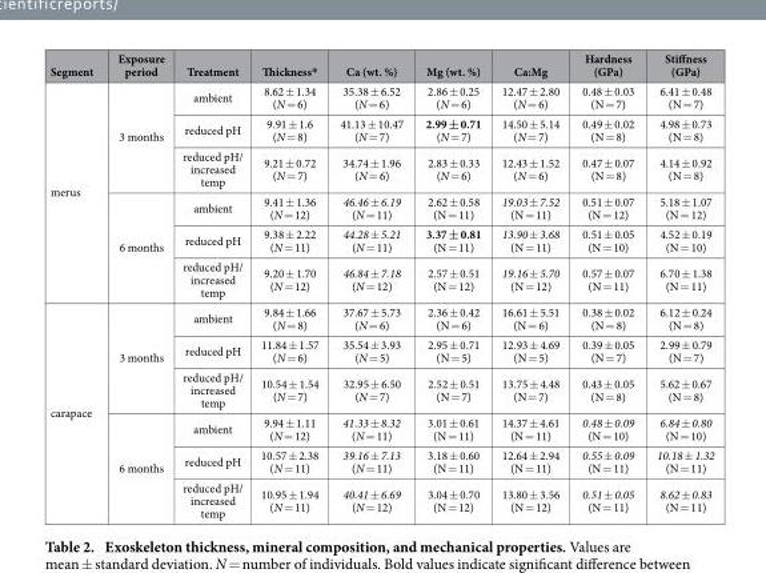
<table><thead><tr><td>Segment</td><td>Exposure period</td><td>Treatment</td><td>Thickness*</td><td>Ca (wt. %)</td><td>Mg (wt. %)</td><td>Ca:Mg</td><td>Hardness (GPa)</td><td>Stiffness (GPa)</td></tr></thead><tbody><tr><td rowspan="6">merus</td><td rowspan="3">3 months</td><td>ambient</td><td>8.62 ± 1.34 (N = 6)</td><td>35.38 ± 6.52 (N = 6)</td><td>2.86 ± 0.25 (N = 6)</td><td>12.47 ± 2.80 (N = 6)</td><td>0.48 ± 0.03 (N = 7)</td><td>6.41 ± 0.48 (N = 7)</td></tr><tr><td>reduced pH</td><td>9.91 ± 1.6 (N = 8)</td><td>41.13 ± 10.47 (N = 7)</td><td>2.99 ± 0.71 (N = 7)</td><td>14.50 ± 5.14 (N = 7)</td><td>0.49 ± 0.02 (N = 8)</td><td>4.98 ± 0.73 (N = 8)</td></tr><tr><td>reduced pH/ increased temp</td><td>9.21 ± 0.72 (N = 7)</td><td>34.74 ± 1.96 (N = 6)</td><td>2.83 ± 0.33 (N = 6)</td><td>12.43 ± 1.52 (N = 6)</td><td>0.47 ± 0.07 (N = 8)</td><td>4.14 ± 0.92 (N = 8)</td></tr><tr><td rowspan="3">6 months</td><td>ambient</td><td>9.41 ± 1.36 (N = 12)</td><td>46.46 ± 6.19 (N = 11)</td><td>2.62 ± 0.58 (N = 11)</td><td>19.03 ± 7.52 (N = 11)</td><td>0.51 ± 0.07 (N = 12)</td><td>5.18 ± 1.07 (N = 12)</td></tr><tr><td>reduced pH</td><td>9.38 ± 2.22 (N = 11)</td><td>44.28 ± 5.21 (N = 11)</td><td>3.37 ± 0.81 (N = 11)</td><td>13.90 ± 3.68 (N = 11)</td><td>0.51 ± 0.05 (N = 10)</td><td>4.52 ± 0.19 (N = 10)</td></tr><tr><td>reduced pH/ increased temp</td><td>9.20 ± 1.70 (N = 12)</td><td>46.84 ± 7.18 (N = 12)</td><td>2.57 ± 0.51 (N = 12)</td><td>19.16 ± 5.70 (N = 12)</td><td>0.57 ± 0.07 (N = 11)</td><td>6.70 ± 1.38 (N = 11)</td></tr><tr><td rowspan="6">carapace</td><td rowspan="3">3 months</td><td>ambient</td><td>9.84 ± 1.66 (N = 8)</td><td>37.67 ± 5.73 (N = 6)</td><td>2.36 ± 0.42 (N = 6)</td><td>16.61 ± 5.51 (N = 6)</td><td>0.38 ± 0.02 (N = 8)</td><td>6.12 ± 0.24 (N = 8)</td></tr><tr><td>reduced pH</td><td>11.84 ± 1.57 (N = 6)</td><td>35.54 ± 3.93 (N = 5)</td><td>2.95 ± 0.71 (N = 5)</td><td>12.93 ± 4.69 (N = 5)</td><td>0.39 ± 0.05 (N = 7)</td><td>2.99 ± 0.79 (N = 7)</td></tr><tr><td>reduced pH/ increased temp</td><td>10.54 ± 1.54 (N = 7)</td><td>32.95 ± 6.50 (N = 7)</td><td>2.52 ± 0.51 (N = 7)</td><td>13.75 ± 4.48 (N = 7)</td><td>0.43 ± 0.05 (N = 8)</td><td>5.62 ± 0.67 (N = 8)</td></tr><tr><td rowspan="3">6 months</td><td>ambient</td><td>9.94 ± 1.11 (N = 12)</td><td>41.33 ± 8.32 (N = 11)</td><td>3.01 ± 0.61 (N = 11)</td><td>14.37 ± 4.61 (N = 11)</td><td>0.48 ± 0.09 (N = 10)</td><td>6.84 ± 0.80 (N = 10)</td></tr><tr><td>reduced pH</td><td>10.57 ± 2.38 (N = 11)</td><td>39.16 ± 7.13 (N = 11)</td><td>3.18 ± 0.60 (N = 11)</td><td>12.64 ± 2.94 (N = 11)</td><td>0.55 ± 0.09 (N = 11)</td><td>10.18 ± 1.32 (N = 11)</td></tr><tr><td>reduced pH/ increased temp</td><td>10.95 ± 1.94 (N = 11)</td><td>40.41 ± 6.69 (N = 12)</td><td>3.04 ± 0.70 (N = 12)</td><td>13.80 ± 3.56 (N = 12)</td><td>0.51 ± 0.05 (N = 11)</td><td>8.62 ± 0.83 (N = 11)</td></tr></tbody></table>